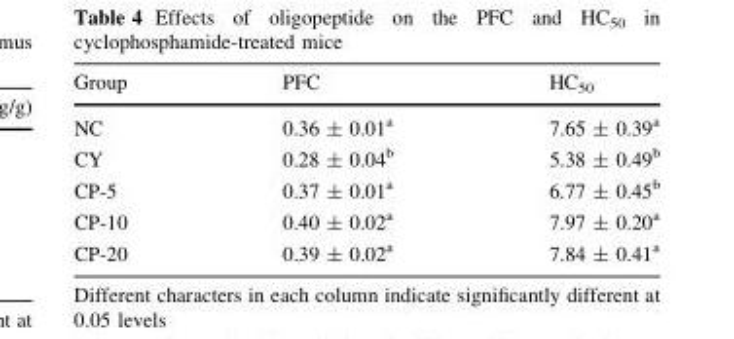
<table><thead><tr><td>Group</td><td>PFC</td><td>HC<sub>50</sub></td></tr></thead><tbody><tr><td>NC</td><td>0.36 ± 0.01<sup>a</sup></td><td>7.65 ± 0.39<sup>a</sup></td></tr><tr><td>CY</td><td>0.28 ± 0.04<sup>b</sup></td><td>5.38 ± 0.49<sup>b</sup></td></tr><tr><td>CP-5</td><td>0.37 ± 0.01<sup>a</sup></td><td>6.77 ± 0.45<sup>b</sup></td></tr><tr><td>CP-10</td><td>0.40 ± 0.02<sup>a</sup></td><td>7.97 ± 0.20<sup>a</sup></td></tr><tr><td>CP-20</td><td>0.39 ± 0.02<sup>a</sup></td><td>7.84 ± 0.41<sup>a</sup></td></tr></tbody></table>